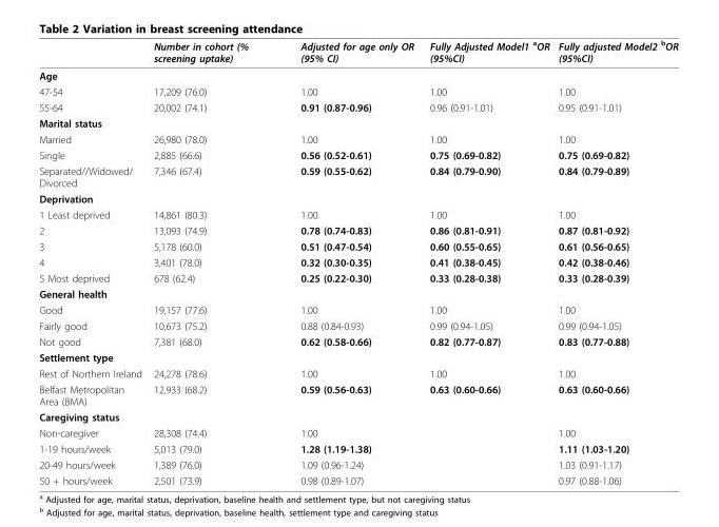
<table><thead><tr><td></td><td>Number in cohort (% screening uptake)</td><td>Adjusted for age only OR (95% CI)</td><td>Fully Adjusted Model1 <sup>a</sup>OR (95%CI)</td><td>Fully adjusted Model2 <sup>b</sup>OR (95%CI)</td></tr></thead><tbody><tr><td colspan="5">Age</td></tr><tr><td>47-54</td><td>17,209 (76.0)</td><td>1.00</td><td>1.00</td><td>1.00</td></tr><tr><td>55-64</td><td>20,002 (74.1)</td><td>0.91 (0.87-0.96)</td><td>0.96 (0.91-1.01)</td><td>0.95 (0.91-1.01)</td></tr><tr><td colspan="5">Marital status</td></tr><tr><td>Married</td><td>26,980 (78.0)</td><td>1.00</td><td>1.00</td><td>1.00</td></tr><tr><td>Single</td><td>2,885 (66.6)</td><td>0.56 (0.52-0.61)</td><td>0.75 (0.69-0.82)</td><td>0.75 (0.69-0.82)</td></tr><tr><td>Separated//Widowed/ Divorced</td><td>7,346 (67.4)</td><td>0.59 (0.55-0.62)</td><td>0.84 (0.79-0.90)</td><td>0.84 (0.79-0.89)</td></tr><tr><td colspan="5">Deprivation</td></tr><tr><td>1 Least deprived</td><td>14,861 (80.3)</td><td>1.00</td><td>1.00</td><td>1.00</td></tr><tr><td>2</td><td>13,093 (74.9)</td><td>0.78 (0.74-0.83)</td><td>0.86 (0.81-0.91)</td><td>0.87 (0.81-0.92)</td></tr><tr><td>3</td><td>5,178 (60.0)</td><td>0.51 (0.47-0.54)</td><td>0.60 (0.55-0.65)</td><td>0.61 (0.56-0.65)</td></tr><tr><td>4</td><td>3,401 (78.0)</td><td>0.32 (0.30-0.35)</td><td>0.41 (0.38-0.45)</td><td>0.42 (0.38-0.46)</td></tr><tr><td>5 Most deprived</td><td>678 (62.4)</td><td>0.25 (0.22-0.30)</td><td>0.33 (0.28-0.38)</td><td>0.33 (0.28-0.39)</td></tr><tr><td colspan="5">General health</td></tr><tr><td>Good</td><td>19,157 (77.6)</td><td>1.00</td><td>1.00</td><td>1.00</td></tr><tr><td>Fairly good</td><td>10,673 (75.2)</td><td>0.88 (0.84-0.93)</td><td>0.99 (0.94-1.05)</td><td>0.99 (0.94-1.05)</td></tr><tr><td>Not good</td><td>7,381 (68.0)</td><td>0.62 (0.58-0.66)</td><td>0.82 (0.77-0.87)</td><td>0.83 (0.77-0.88)</td></tr><tr><td colspan="5">Settlement type</td></tr><tr><td>Rest of Northern Ireland</td><td>24,278 (78.6)</td><td>1.00</td><td>1.00</td><td>1.00</td></tr><tr><td>Belfast Metropolitan Area (BMA)</td><td>12,933 (68.2)</td><td>0.59 (0.56-0.63)</td><td>0.63 (0.60-0.66)</td><td>0.63 (0.60-0.66)</td></tr><tr><td colspan="5">Caregiving status</td></tr><tr><td>Non-caregiver</td><td>28,308 (74.4)</td><td>1.00</td><td></td><td>1.00</td></tr><tr><td>1-19 hours/week</td><td>5,013 (79.0)</td><td>1.28 (1.19-1.38)</td><td></td><td>1.11 (1.03-1.20)</td></tr><tr><td>20-49 hours/week</td><td>1,389 (76.0)</td><td>1.09 (0.96-1.24)</td><td></td><td>1.03 (0.91-1.17)</td></tr><tr><td>50 + hours/week</td><td>2,501 (73.9)</td><td>0.98 (0.89-1.07)</td><td></td><td>0.97 (0.88-1.06)</td></tr></tbody></table>